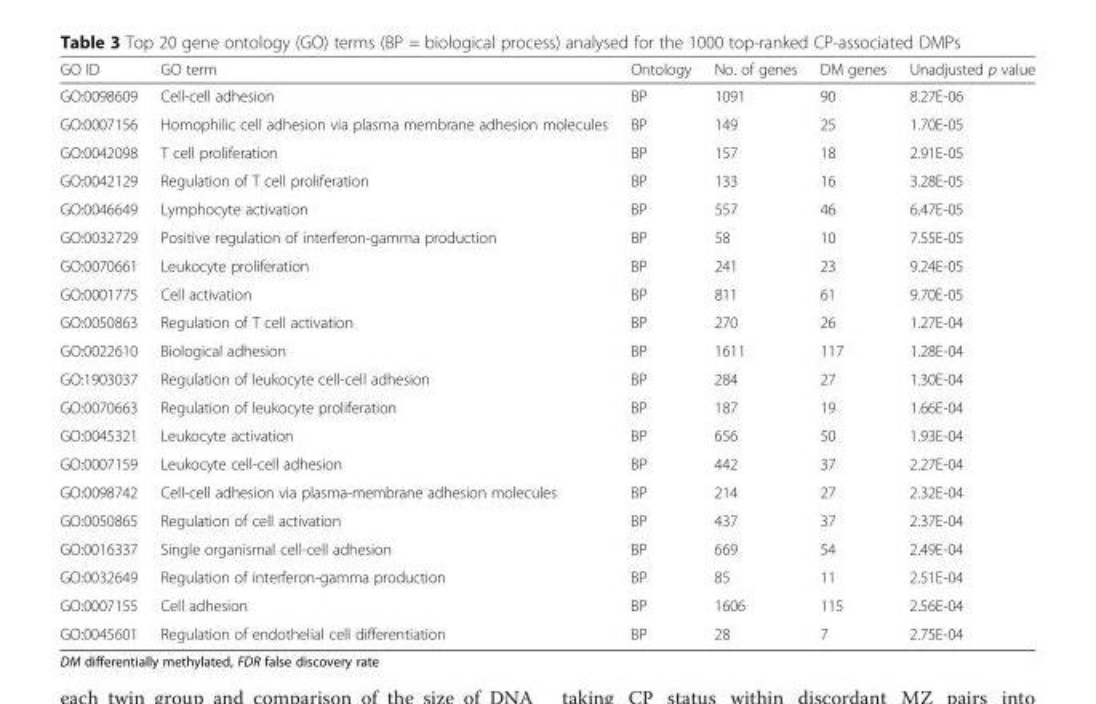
<table><thead><tr><td>GO ID</td><td>GO term</td><td>Ontology</td><td>No. of genes</td><td>DM genes</td><td>Unadjusted p value</td></tr></thead><tbody><tr><td>GO:0098609</td><td>Cell-cell adhesion</td><td>BP</td><td>1091</td><td>90</td><td>8.27E-06</td></tr><tr><td>GO:0007156</td><td>Homophilic cell adhesion via plasma membrane adhesion molecules</td><td>BP</td><td>149</td><td>25</td><td>1.70E-05</td></tr><tr><td>GO:0042098</td><td>T cell proliferation</td><td>BP</td><td>157</td><td>18</td><td>2.91E-05</td></tr><tr><td>GO:0042129</td><td>Regulation of T cell proliferation</td><td>BP</td><td>133</td><td>16</td><td>3.28E-05</td></tr><tr><td>GO:0046649</td><td>Lymphocyte activation</td><td>BP</td><td>557</td><td>46</td><td>6.47E-05</td></tr><tr><td>GO:0032729</td><td>Positive regulation of interferon-gamma production</td><td>BP</td><td>58</td><td>10</td><td>7.55E-05</td></tr><tr><td>GO:0070661</td><td>Leukocyte proliferation</td><td>BP</td><td>241</td><td>23</td><td>9.24E-05</td></tr><tr><td>GO:0001775</td><td>Cell activation</td><td>BP</td><td>811</td><td>61</td><td>9.70E-05</td></tr><tr><td>GO:0050863</td><td>Regulation of T cell activation</td><td>BP</td><td>270</td><td>26</td><td>1.27E-04</td></tr><tr><td>GO:0022610</td><td>Biological adhesion</td><td>BP</td><td>1611</td><td>117</td><td>1.28E-04</td></tr><tr><td>GO:1903037</td><td>Regulation of leukocyte cell-cell adhesion</td><td>BP</td><td>284</td><td>27</td><td>1.30E-04</td></tr><tr><td>GO:0070663</td><td>Regulation of leukocyte proliferation</td><td>BP</td><td>187</td><td>19</td><td>1.66E-04</td></tr><tr><td>GO:0045321</td><td>Leukocyte activation</td><td>BP</td><td>656</td><td>50</td><td>1.93E-04</td></tr><tr><td>GO:0007159</td><td>Leukocyte cell-cell adhesion</td><td>BP</td><td>442</td><td>37</td><td>2.27E-04</td></tr><tr><td>GO:0098742</td><td>Cell-cell adhesion via plasma-membrane adhesion molecules</td><td>BP</td><td>214</td><td>27</td><td>2.32E-04</td></tr><tr><td>GO:0050865</td><td>Regulation of cell activation</td><td>BP</td><td>437</td><td>37</td><td>2.37E-04</td></tr><tr><td>GO:0016337</td><td>Single organismal cell-cell adhesion</td><td>BP</td><td>669</td><td>54</td><td>2.49E-04</td></tr><tr><td>GO:0032649</td><td>Regulation of interferon-gamma production</td><td>BP</td><td>85</td><td>11</td><td>2.51E-04</td></tr><tr><td>GO:0007155</td><td>Cell adhesion</td><td>BP</td><td>1606</td><td>115</td><td>2.56E-04</td></tr><tr><td>GO:0045601</td><td>Regulation of endothelial cell differentiation</td><td>BP</td><td>28</td><td>7</td><td>2.75E-04</td></tr></tbody></table>